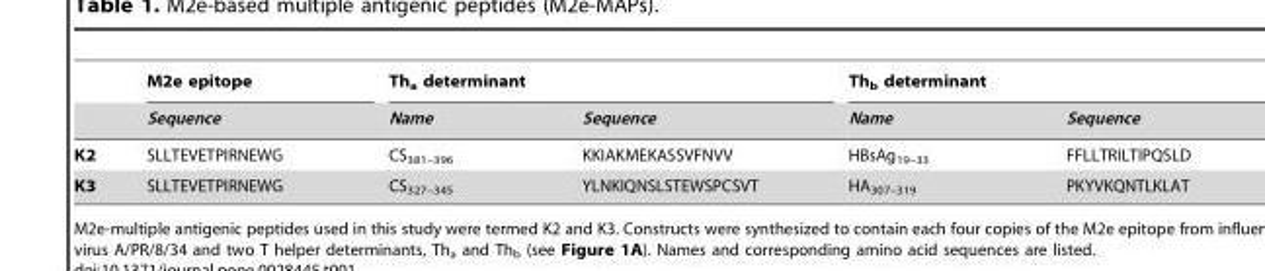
<table><thead><tr><td rowspan="2"></td><td rowspan="2">M2e epitope Sequence</td><td colspan="2">Th<sub>a</sub> determinant</td><td colspan="2">Th<sub>b</sub> determinant</td></tr><tr><td>Name</td><td>Sequence</td><td>Name</td><td>Sequence</td></tr></thead><tbody><tr><td>K2</td><td>SLLTEVETPIRNEWG</td><td>CS<sub>381–396</sub></td><td>KKIAKMEKASSVFNVV</td><td>HBsAg<sub>19–33</sub></td><td>FFLLTRILTIPQSLD</td></tr><tr><td>K3</td><td>SLLTEVETPIRNEWG</td><td>CS<sub>327–345</sub></td><td>YLNKIQNSLSTEWSPCSVT</td><td>HA<sub>307–319</sub></td><td>PKYVKQNTLKLAT</td></tr></tbody></table>